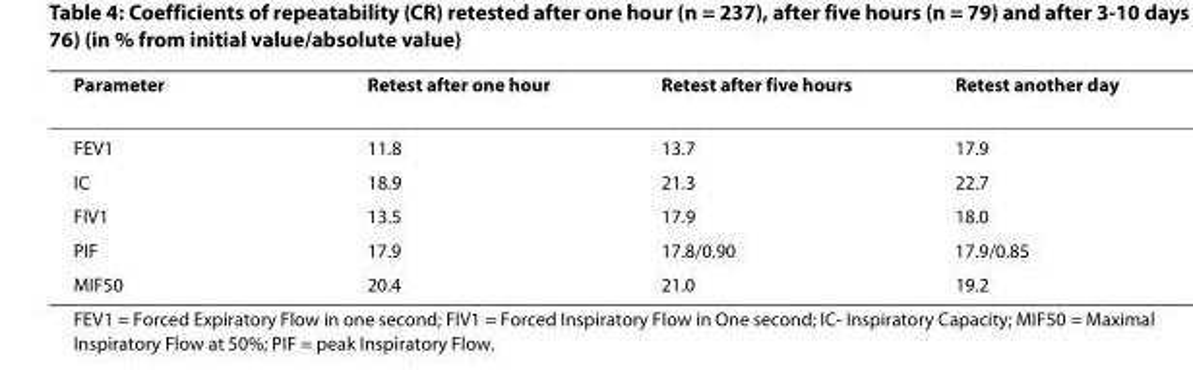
<table><thead><tr><td>Parameter</td><td>Retest after one hour</td><td>Retest after five hours</td><td>Retest another day</td></tr></thead><tbody><tr><td>FEV1</td><td>11.8</td><td>13.7</td><td>17.9</td></tr><tr><td>IC</td><td>18.9</td><td>21.3</td><td>22.7</td></tr><tr><td>FIV1</td><td>13.5</td><td>17.9</td><td>18.0</td></tr><tr><td>PIF</td><td>17.9</td><td>17.8/0.90</td><td>17.9/0.85</td></tr><tr><td>MIF50</td><td>20.4</td><td>21.0</td><td>19.2</td></tr></tbody></table>